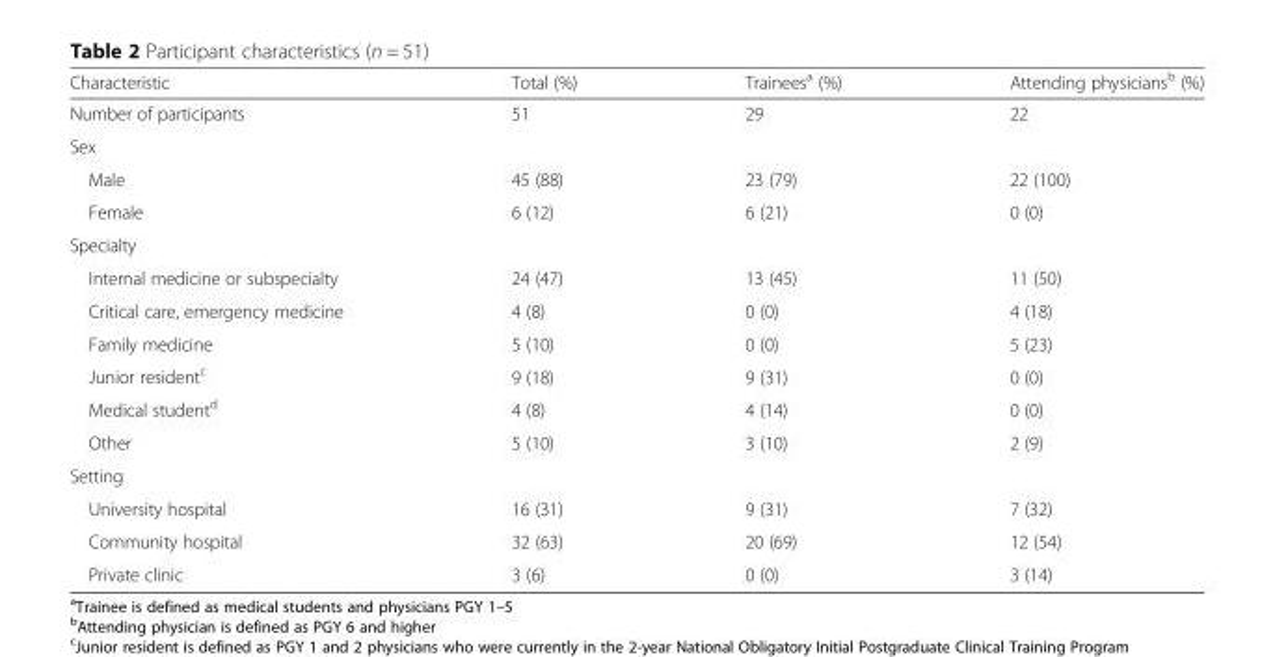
<table><thead><tr><td>Characteristic</td><td>Total (%)</td><td>Trainees<sup>a</sup> (%)</td><td>Attending physicians<sup>b</sup> (%)</td></tr></thead><tbody><tr><td>Number of participants</td><td>51</td><td>29</td><td>22</td></tr><tr><td colspan="4">Sex</td></tr><tr><td>Male</td><td>45 (88)</td><td>23 (79)</td><td>22 (100)</td></tr><tr><td>Female</td><td>6 (12)</td><td>6 (21)</td><td>0 (0)</td></tr><tr><td colspan="4">Specialty</td></tr><tr><td>Internal medicine or subspecialty</td><td>24 (47)</td><td>13 (45)</td><td>11 (50)</td></tr><tr><td>Critical care, emergency medicine</td><td>4 (8)</td><td>0 (0)</td><td>4 (18)</td></tr><tr><td>Family medicine</td><td>5 (10)</td><td>0 (0)</td><td>5 (23)</td></tr><tr><td>Junior resident<sup>c</sup></td><td>9 (18)</td><td>9 (31)</td><td>0 (0)</td></tr><tr><td>Medical student<sup>d</sup></td><td>4 (8)</td><td>4 (14)</td><td>0 (0)</td></tr><tr><td>Other</td><td>5 (10)</td><td>3 (10)</td><td>2 (9)</td></tr><tr><td colspan="4">Setting</td></tr><tr><td>University hospital</td><td>16 (31)</td><td>9 (31)</td><td>7 (32)</td></tr><tr><td>Community hospital</td><td>32 (63)</td><td>20 (69)</td><td>12 (54)</td></tr><tr><td>Private clinic</td><td>3 (6)</td><td>0 (0)</td><td>3 (14)</td></tr></tbody></table>